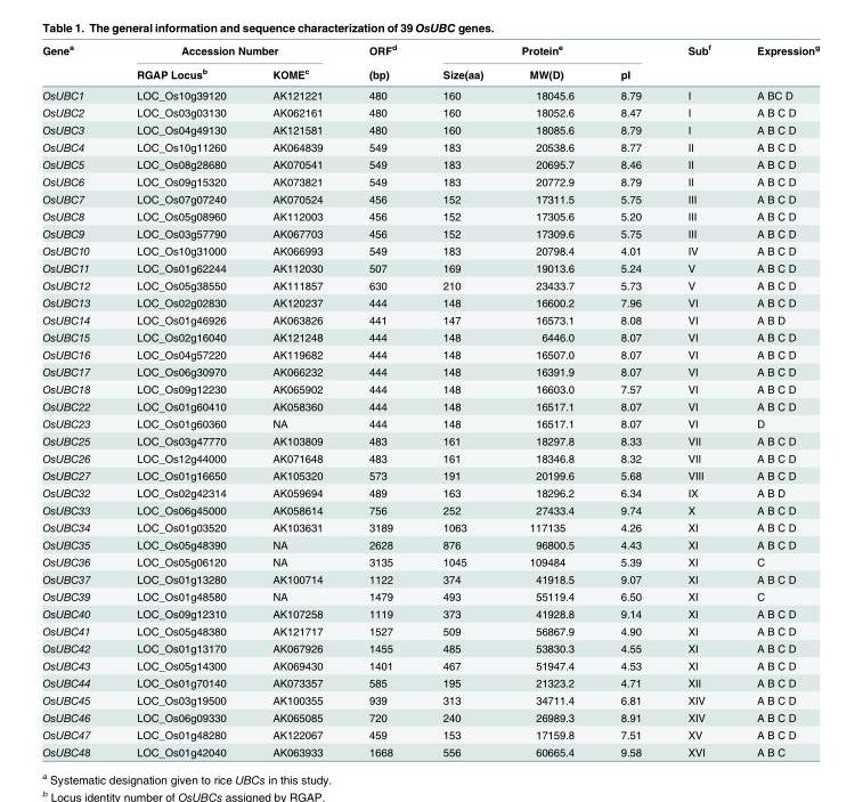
<table><thead><tr><td rowspan="2">Gene<sup>a</sup></td><td colspan="2">Accession Number</td><td rowspan="2">ORF<sup>d</sup> (bp)</td><td colspan="3">Protein<sup>e</sup></td><td rowspan="2">Sub<sup>f</sup></td><td rowspan="2">Expression<sup>g</sup></td></tr><tr><td>RGAP Locus<sup>b</sup></td><td>KOME<sup>c</sup></td><td>Size(aa)</td><td>MW(D)</td><td>pI</td></tr></thead><tbody><tr><td>OsUBC1</td><td>LOC_Os10g39120</td><td>AK121221</td><td>480</td><td>160</td><td>18045.6</td><td>8.79</td><td>I</td><td>A BC D</td></tr><tr><td>OsUBC2</td><td>LOC_Os03g03130</td><td>AK062161</td><td>480</td><td>160</td><td>18052.6</td><td>8.47</td><td>I</td><td>A B C D</td></tr><tr><td>OsUBC3</td><td>LOC_Os04g49130</td><td>AK121581</td><td>480</td><td>160</td><td>18085.6</td><td>8.79</td><td>I</td><td>A B C D</td></tr><tr><td>OsUBC4</td><td>LOC_Os10g11260</td><td>AK064839</td><td>549</td><td>183</td><td>20538.6</td><td>8.77</td><td>II</td><td>A B C D</td></tr><tr><td>OsUBC5</td><td>LOC_Os08g28680</td><td>AK070541</td><td>549</td><td>183</td><td>20695.7</td><td>8.46</td><td>II</td><td>A B C D</td></tr><tr><td>OsUBC6</td><td>LOC_Os09g15320</td><td>AK073821</td><td>549</td><td>183</td><td>20772.9</td><td>8.79</td><td>II</td><td>A B C D</td></tr><tr><td>OsUBC7</td><td>LOC_Os07g07240</td><td>AK070524</td><td>456</td><td>152</td><td>17311.5</td><td>5.75</td><td>III</td><td>A B C D</td></tr><tr><td>OsUBC8</td><td>LOC_Os05g08960</td><td>AK112003</td><td>456</td><td>152</td><td>17305.6</td><td>5.20</td><td>III</td><td>A B C D</td></tr><tr><td>OsUBC9</td><td>LOC_Os03g57790</td><td>AK067703</td><td>456</td><td>152</td><td>17309.6</td><td>5.75</td><td>III</td><td>A B C D</td></tr><tr><td>OsUBC10</td><td>LOC_Os10g31000</td><td>AK066993</td><td>549</td><td>183</td><td>20798.4</td><td>4.01</td><td>IV</td><td>A B C D</td></tr><tr><td>OsUBC11</td><td>LOC_Os01g62244</td><td>AK112030</td><td>507</td><td>169</td><td>19013.6</td><td>5.24</td><td>V</td><td>A B C D</td></tr><tr><td>OsUBC12</td><td>LOC_Os05g38550</td><td>AK111857</td><td>630</td><td>210</td><td>23433.7</td><td>5.73</td><td>V</td><td>A B C D</td></tr><tr><td>OsUBC13</td><td>LOC_Os02g02830</td><td>AK120237</td><td>444</td><td>148</td><td>16600.2</td><td>7.96</td><td>VI</td><td>A B C D</td></tr><tr><td>OsUBC14</td><td>LOC_Os01g46926</td><td>AK063826</td><td>441</td><td>147</td><td>16573.1</td><td>8.08</td><td>VI</td><td>A B D</td></tr><tr><td>OsUBC15</td><td>LOC_Os02g16040</td><td>AK121248</td><td>444</td><td>148</td><td>6446.0</td><td>8.07</td><td>VI</td><td>A B C D</td></tr><tr><td>OsUBC16</td><td>LOC_Os04g57220</td><td>AK119682</td><td>444</td><td>148</td><td>16507.0</td><td>8.07</td><td>VI</td><td>A B C D</td></tr><tr><td>OsUBC17</td><td>LOC_Os06g30970</td><td>AK066232</td><td>444</td><td>148</td><td>16391.9</td><td>8.07</td><td>VI</td><td>A B C D</td></tr><tr><td>OsUBC18</td><td>LOC_Os09g12230</td><td>AK065902</td><td>444</td><td>148</td><td>16603.0</td><td>7.57</td><td>VI</td><td>A B C D</td></tr><tr><td>OsUBC22</td><td>LOC_Os01g60410</td><td>AK058360</td><td>444</td><td>148</td><td>16517.1</td><td>8.07</td><td>VI</td><td>A B C D</td></tr><tr><td>OsUBC23</td><td>LOC_Os01g60360</td><td>NA</td><td>444</td><td>148</td><td>16517.1</td><td>8.07</td><td>VI</td><td>D</td></tr><tr><td>OsUBC25</td><td>LOC_Os03g47770</td><td>AK103809</td><td>483</td><td>161</td><td>18297.8</td><td>8.33</td><td>VII</td><td>A B C D</td></tr><tr><td>OsUBC26</td><td>LOC_Os12g44000</td><td>AK071648</td><td>483</td><td>161</td><td>18346.8</td><td>8.32</td><td>VII</td><td>A B C D</td></tr><tr><td>OsUBC27</td><td>LOC_Os01g16650</td><td>AK105320</td><td>573</td><td>191</td><td>20199.6</td><td>5.68</td><td>VIII</td><td>A B C D</td></tr><tr><td>OsUBC32</td><td>LOC_Os02g42314</td><td>AK059694</td><td>489</td><td>163</td><td>18296.2</td><td>6.34</td><td>IX</td><td>A B D</td></tr><tr><td>OsUBC33</td><td>LOC_Os06g45000</td><td>AK058614</td><td>756</td><td>252</td><td>27433.4</td><td>9.74</td><td>X</td><td>A B C D</td></tr><tr><td>OsUBC34</td><td>LOC_Os01g03520</td><td>AK103631</td><td>3189</td><td>1063</td><td>117135</td><td>4.26</td><td>XI</td><td>A B C D</td></tr><tr><td>OsUBC35</td><td>LOC_Os05g48390</td><td>NA</td><td>2628</td><td>876</td><td>96800.5</td><td>4.43</td><td>XI</td><td>A B C D</td></tr><tr><td>OsUBC36</td><td>LOC_Os05g06120</td><td>NA</td><td>3135</td><td>1045</td><td>109484</td><td>5.39</td><td>XI</td><td>C</td></tr><tr><td>OsUBC37</td><td>LOC_Os01g13280</td><td>AK100714</td><td>1122</td><td>374</td><td>41918.5</td><td>9.07</td><td>XI</td><td>A B C D</td></tr><tr><td>OsUBC39</td><td>LOC_Os01g48580</td><td>NA</td><td>1479</td><td>493</td><td>55119.4</td><td>6.50</td><td>XI</td><td>C</td></tr><tr><td>OsUBC40</td><td>LOC_Os09g12310</td><td>AK107258</td><td>1119</td><td>373</td><td>41928.8</td><td>9.14</td><td>XI</td><td>A B C D</td></tr><tr><td>OsUBC41</td><td>LOC_Os05g48380</td><td>AK121717</td><td>1527</td><td>509</td><td>56867.9</td><td>4.90</td><td>XI</td><td>A B C D</td></tr><tr><td>OsUBC42</td><td>LOC_Os01g13170</td><td>AK067926</td><td>1455</td><td>485</td><td>53830.3</td><td>4.55</td><td>XI</td><td>A B C D</td></tr><tr><td>OsUBC43</td><td>LOC_Os05g14300</td><td>AK069430</td><td>1401</td><td>467</td><td>51947.4</td><td>4.53</td><td>XI</td><td>A B C D</td></tr><tr><td>OsUBC44</td><td>LOC_Os01g70140</td><td>AK073357</td><td>585</td><td>195</td><td>21323.2</td><td>4.71</td><td>XII</td><td>A B C D</td></tr><tr><td>OsUBC45</td><td>LOC_Os03g19500</td><td>AK100355</td><td>939</td><td>313</td><td>34711.4</td><td>6.81</td><td>XIV</td><td>A B C D</td></tr><tr><td>OsUBC46</td><td>LOC_Os06g09330</td><td>AK065085</td><td>720</td><td>240</td><td>26989.3</td><td>8.91</td><td>XIV</td><td>A B C D</td></tr><tr><td>OsUBC47</td><td>LOC_Os01g48280</td><td>AK122067</td><td>459</td><td>153</td><td>17159.8</td><td>7.51</td><td>XV</td><td>A B C D</td></tr><tr><td>OsUBC48</td><td>LOC_Os01g42040</td><td>AK063933</td><td>1668</td><td>556</td><td>60665.4</td><td>9.58</td><td>XVI</td><td>A B C</td></tr></tbody></table>